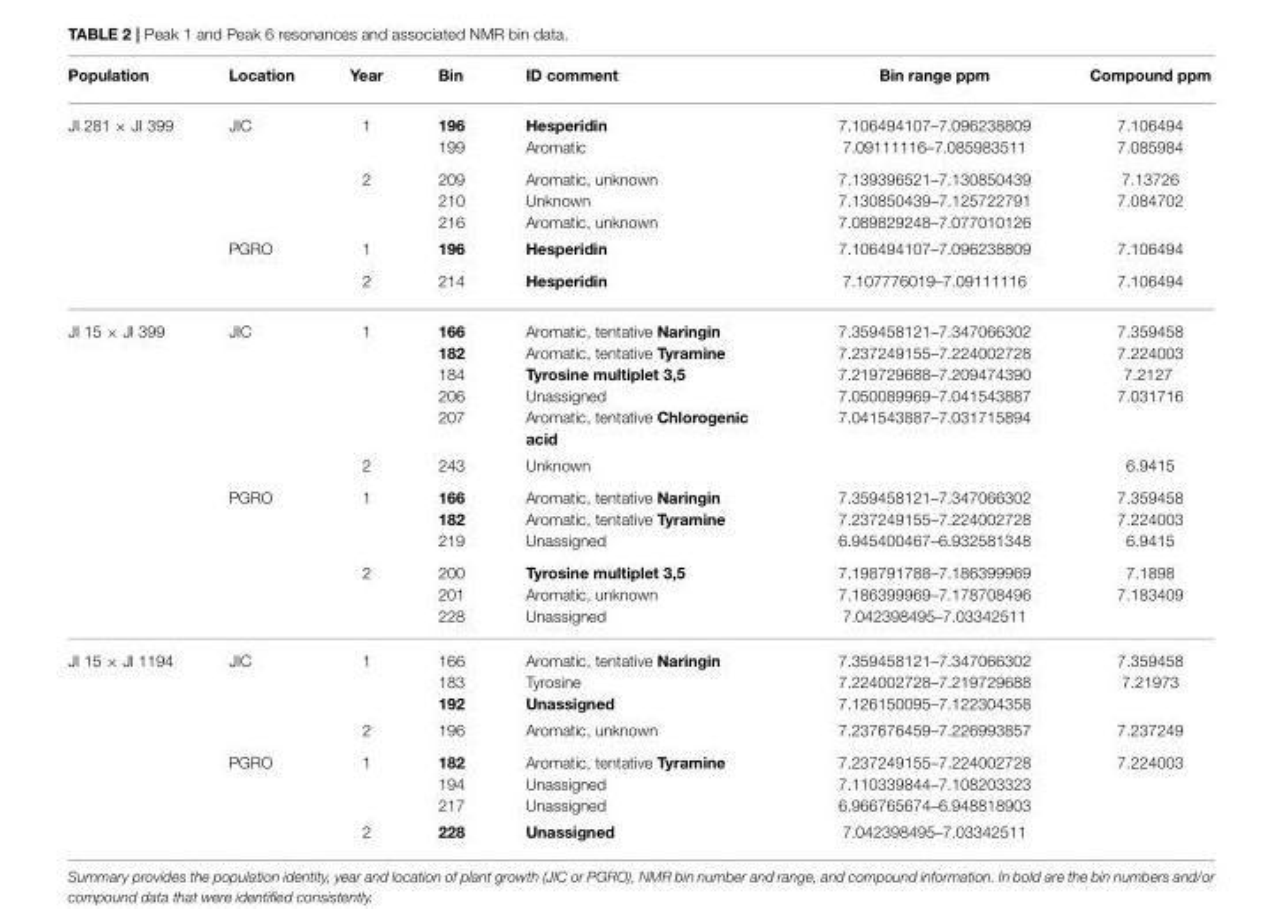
<table><thead><tr><td>Population</td><td>Location</td><td>Year</td><td>Bin</td><td>ID comment</td><td>Bin range ppm</td><td>Compound ppm</td></tr></thead><tbody><tr><td rowspan="4">JI 281 × JI 399</td><td>JIC</td><td>1</td><td>196 199</td><td>Hesperidin Aromatic</td><td>7.106494107–7.096238809 7.09111116–7.085983511</td><td>7.106494 7.085984</td></tr><tr><td></td><td>2</td><td>209 210 216</td><td>Aromatic, unknown Unknown Aromatic, unknown</td><td>7.139396521–7.130850439 7.130850439–7.125722791 7.089829248–7.077010126</td><td>7.13726 7.084702</td></tr><tr><td>PGRO</td><td>1</td><td>196</td><td>Hesperidin</td><td>7.106494107–7.096238809</td><td>7.106494</td></tr><tr><td></td><td>2</td><td>214</td><td>Hesperidin</td><td>7.107776019–7.09111116</td><td>7.106494</td></tr><tr><td rowspan="4">JI 15 × JI 399</td><td>JIC</td><td>1</td><td>166 182 184 206 207</td><td>Aromatic, tentative Naringin Aromatic, tentative Tyramine Tyrosine multiplet 3,5 Unassigned Aromatic, tentative Chlorogenic acid</td><td>7.359458121–7.347066302 7.237249155–7.224002728 7.219729688–7.209474390 7.050089969–7.041543887 7.041543887–7.031715894</td><td>7.359458 7.224003 7.2127 7.031716</td></tr><tr><td></td><td>2</td><td>243</td><td>Unknown</td><td></td><td>6.9415</td></tr><tr><td>PGRO</td><td>1</td><td>166 182 219</td><td>Aromatic, tentative Naringin Aromatic, tentative Tyramine Unassigned</td><td>7.359458121–7.347066302 7.237249155–7.224002728 6.945400467–6.932581348</td><td>7.359458 7.224003 6.9415</td></tr><tr><td></td><td>2</td><td>200 201 228</td><td>Tyrosine multiplet 3,5 Aromatic, unknown Unassigned</td><td>7.198791788–7.186399969 7.186399969–7.178708496 7.042398495–7.03342511</td><td>7.1898 7.183409</td></tr><tr><td rowspan="4">JI 15 × JI 1194</td><td>JIC</td><td>1</td><td>166 183 192</td><td>Aromatic, tentative Naringin Tyrosine Unassigned</td><td>7.359458121–7.347066302 7.224002728–7.219729688 7.126150095–7.122304358</td><td>7.359458 7.21973</td></tr><tr><td></td><td>2</td><td>196</td><td>Aromatic, unknown</td><td>7.237676459–7.226993857</td><td>7.237249</td></tr><tr><td>PGRO</td><td>1</td><td>182 194 217</td><td>Aromatic, tentative Tyramine Unassigned Unassigned</td><td>7.237249155–7.224002728 7.110339844–7.108203323 6.966765674–6.948818903</td><td>7.224003</td></tr><tr><td></td><td>2</td><td>228</td><td>Unassigned</td><td>7.042398495–7.03342511</td><td></td></tr></tbody></table>